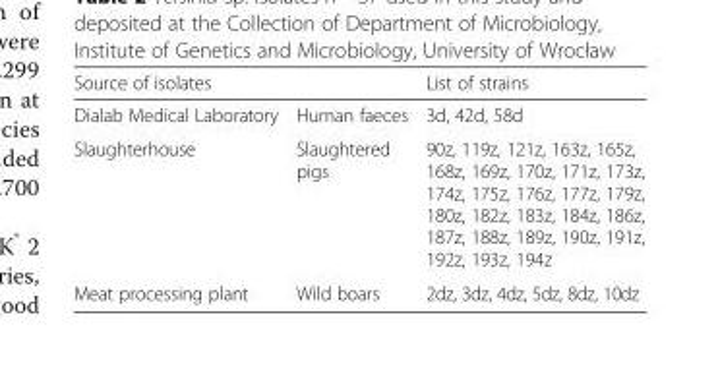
<table><thead><tr><td colspan="2">Source of isolates</td><td rowspan="2">List of strains 3d, 42d, 58d</td></tr><tr><td>Dialab Medical Laboratory</td><td>Human faeces</td></tr></thead><tbody><tr><td>Slaughterhouse</td><td>Slaughtered pigs</td><td>90z, 119z, 121z, 163z, 165z, 168z, 169z, 170z, 171z, 173z, 174z, 175z, 176z, 177z, 179z, 180z, 182z, 183z, 184z, 186z, 187z, 188z, 189z, 190z, 191z, 192z, 193z, 194z</td></tr><tr><td>Meat processing plant</td><td>Wild boars</td><td>2dz, 3dz, 4dz, 5dz, 8dz, 10dz</td></tr></tbody></table>